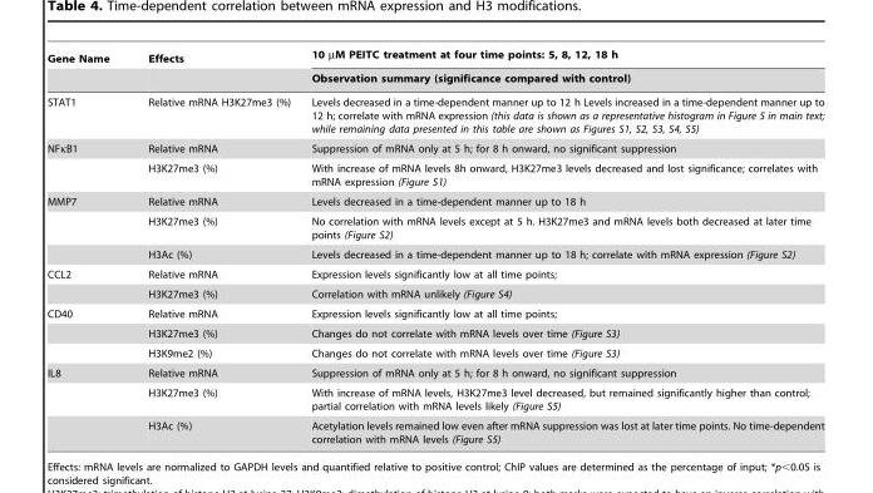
<table><thead><tr><td rowspan="2">Gene Name</td><td rowspan="2">Effects</td><td rowspan="2">10 µM PEITC treatment at four time points: 5, 8, 12, 18 h Observation summary (significance compared with control)</td></tr><tr></tr></thead><tbody><tr><td>STAT1</td><td>Relative mRNA H3K27me3 (%)</td><td>Levels decreased in a time-dependent manner up to 12 h Levels increased in a time-dependent manner up to 12 h; correlate with mRNA expression (this data is shown as a representative histogram in Figure 5 in main text; while remaining data presented in this table are shown as Figures S1, S2, S3, S4, S5)</td></tr><tr><td rowspan="2">NFκB1</td><td>Relative mRNA</td><td>Suppression of mRNA only at 5 h; for 8 h onward, no significant suppression</td></tr><tr><td>H3K27me3 (%)</td><td>With increase of mRNA levels 8h onward, H3K27me3 levels decreased and lost significance; correlates with mRNA expression (Figure S1)</td></tr><tr><td rowspan="3">MMP7</td><td>Relative mRNA</td><td>Levels decreased in a time-dependent manner up to 18 h</td></tr><tr><td>H3K27me3 (%)</td><td>No correlation with mRNA levels except at 5 h. H3K27me3 and mRNA levels both decreased at later time points (Figure S2)</td></tr><tr><td>H3Ac (%)</td><td>Levels decreased in a time-dependent manner up to 18 h; correlate with mRNA expression (Figure S2)</td></tr><tr><td rowspan="2">CCL2</td><td>Relative mRNA</td><td>Expression levels significantly low at all time points;</td></tr><tr><td>H3K27me3 (%)</td><td>Correlation with mRNA unlikely (Figure S4)</td></tr><tr><td rowspan="3">CD40</td><td>Relative mRNA</td><td>Expression levels significantly low at all time points;</td></tr><tr><td>H3K27me3 (%)</td><td>Changes do not correlate with mRNA levels over time (Figure S3)</td></tr><tr><td>H3K9me2 (%)</td><td>Changes do not correlate with mRNA levels over time (Figure S3)</td></tr><tr><td rowspan="3">IL8</td><td>Relative mRNA</td><td>Suppression of mRNA only at 5 h; for 8 h onward, no significant suppression</td></tr><tr><td>H3K27me3 (%)</td><td>With increase of mRNA levels, H3K27me3 level decreased, but remained significantly higher than control; partial correlation with mRNA levels likely (Figure S5)</td></tr><tr><td>H3Ac (%)</td><td>Acetylation levels remained low even after mRNA suppression was lost at later time points. No time-dependent correlation with mRNA levels (Figure S5)</td></tr></tbody></table>